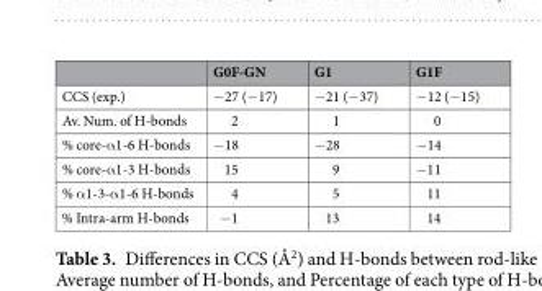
<table><thead><tr><td></td><td>G0F-GN</td><td>G1</td><td>G1F</td></tr></thead><tbody><tr><td>CCS (exp.)</td><td>−27 (−17)</td><td>−21 (−37)</td><td>−12 (−15)</td></tr><tr><td>Av. Num. of H-bonds</td><td>2</td><td>1</td><td>0</td></tr><tr><td>% core-α1-6 H-bonds</td><td>−18</td><td>−28</td><td>−14</td></tr><tr><td>% core-α1-3 H-bonds</td><td>15</td><td>9</td><td>−11</td></tr><tr><td>% α1-3-α1-6 H-bonds</td><td>4</td><td>5</td><td>11</td></tr><tr><td>% Intra-arm H-bonds</td><td>−1</td><td>13</td><td>14</td></tr></tbody></table>